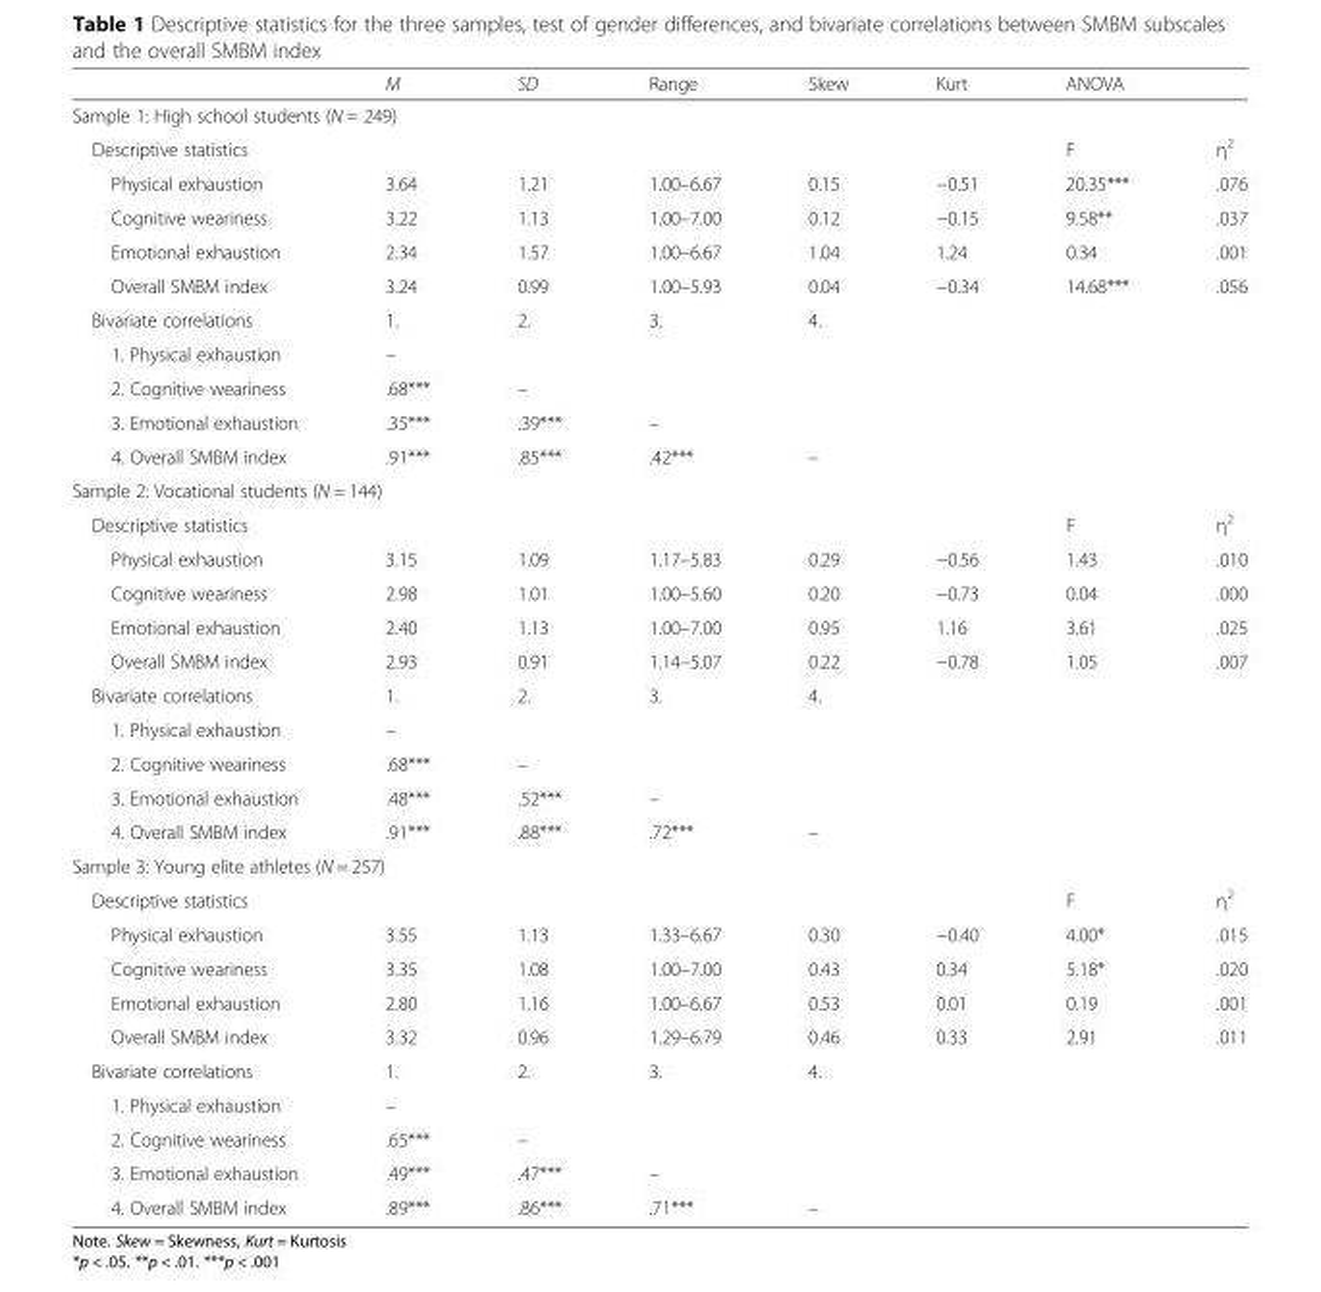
<table><thead><tr><td></td><td>M</td><td>SD</td><td>Range</td><td>Skew</td><td>Kurt</td><td colspan="2">ANOVA</td></tr><tr><td colspan="8">Sample 1: High school students (N = 249)</td></tr><tr><td>Descriptive statistics</td><td></td><td></td><td></td><td></td><td></td><td>F</td><td>η<sup>2</sup></td></tr></thead><tbody><tr><td>Physical exhaustion</td><td>3.64</td><td>1.21</td><td>1.00–6.67</td><td>0.15</td><td>−0.51</td><td>20.35***</td><td>.076</td></tr><tr><td>Cognitive weariness</td><td>3.22</td><td>1.13</td><td>1.00–7.00</td><td>0.12</td><td>−0.15</td><td>9.58**</td><td>.037</td></tr><tr><td>Emotional exhaustion</td><td>2.34</td><td>1.57</td><td>1.00–6.67</td><td>1.04</td><td>1.24</td><td>0.34</td><td>.001</td></tr><tr><td>Overall SMBM index</td><td>3.24</td><td>0.99</td><td>1.00–5.93</td><td>0.04</td><td>−0.34</td><td>14.68***</td><td>.056</td></tr><tr><td>Bivariate correlations</td><td>1.</td><td>2.</td><td>3.</td><td>4.</td><td></td><td></td><td></td></tr><tr><td>1. Physical exhaustion</td><td>–</td><td></td><td></td><td></td><td></td><td></td><td></td></tr><tr><td>2. Cognitive weariness</td><td>.68***</td><td>–</td><td></td><td></td><td></td><td></td><td></td></tr><tr><td>3. Emotional exhaustion</td><td>.35***</td><td>.39***</td><td>–</td><td></td><td></td><td></td><td></td></tr><tr><td>4. Overall SMBM index</td><td>.91***</td><td>.85***</td><td>.42***</td><td>–</td><td></td><td></td><td></td></tr><tr><td colspan="8">Sample 2: Vocational students (N = 144)</td></tr><tr><td>Descriptive statistics</td><td></td><td></td><td></td><td></td><td></td><td>F</td><td>η<sup>2</sup></td></tr><tr><td>Physical exhaustion</td><td>3.15</td><td>1.09</td><td>1.17–5.83</td><td>0.29</td><td>−0.56</td><td>1.43</td><td>.010</td></tr><tr><td>Cognitive weariness</td><td>2.98</td><td>1.01</td><td>1.00–5.60</td><td>0.20</td><td>−0.73</td><td>0.04</td><td>.000</td></tr><tr><td>Emotional exhaustion</td><td>2.40</td><td>1.13</td><td>1.00–7.00</td><td>0.95</td><td>1.16</td><td>3.61</td><td>.025</td></tr><tr><td>Overall SMBM index</td><td>2.93</td><td>0.91</td><td>1.14–5.07</td><td>0.22</td><td>−0.78</td><td>1.05</td><td>.007</td></tr><tr><td>Bivariate correlations</td><td>1.</td><td>2.</td><td>3.</td><td>4.</td><td></td><td></td><td></td></tr><tr><td>1. Physical exhaustion</td><td>–</td><td></td><td></td><td></td><td></td><td></td><td></td></tr><tr><td>2. Cognitive weariness</td><td>.68***</td><td>–</td><td></td><td></td><td></td><td></td><td></td></tr><tr><td>3. Emotional exhaustion</td><td>.48***</td><td>.52***</td><td>–</td><td></td><td></td><td></td><td></td></tr><tr><td>4. Overall SMBM index</td><td>.91***</td><td>.88***</td><td>.72***</td><td>–</td><td></td><td></td><td></td></tr><tr><td colspan="8">Sample 3: Young elite athletes (N = 257)</td></tr><tr><td>Descriptive statistics</td><td></td><td></td><td></td><td></td><td></td><td>F</td><td>η<sup>2</sup></td></tr><tr><td>Physical exhaustion</td><td>3.55</td><td>1.13</td><td>1.33–6.67</td><td>0.30</td><td>−0.40</td><td>4.00*</td><td>.015</td></tr><tr><td>Cognitive weariness</td><td>3.35</td><td>1.08</td><td>1.00–7.00</td><td>0.43</td><td>0.34</td><td>5.18*</td><td>.020</td></tr><tr><td>Emotional exhaustion</td><td>2.80</td><td>1.16</td><td>1.00–6.67</td><td>0.53</td><td>0.01</td><td>0.19</td><td>.001</td></tr><tr><td>Overall SMBM index</td><td>3.32</td><td>0.96</td><td>1.29–6.79</td><td>0.46</td><td>0.33</td><td>2.91</td><td>.011</td></tr><tr><td>Bivariate correlations</td><td>1.</td><td>2.</td><td>3.</td><td>4.</td><td></td><td></td><td></td></tr><tr><td>1. Physical exhaustion</td><td>–</td><td></td><td></td><td></td><td></td><td></td><td></td></tr><tr><td>2. Cognitive weariness</td><td>.65***</td><td>–</td><td></td><td></td><td></td><td></td><td></td></tr><tr><td>3. Emotional exhaustion</td><td>.49***</td><td>.47***</td><td>–</td><td></td><td></td><td></td><td></td></tr><tr><td>4. Overall SMBM index</td><td>.89***</td><td>.86***</td><td>.71***</td><td>–</td><td></td><td></td><td></td></tr></tbody></table>